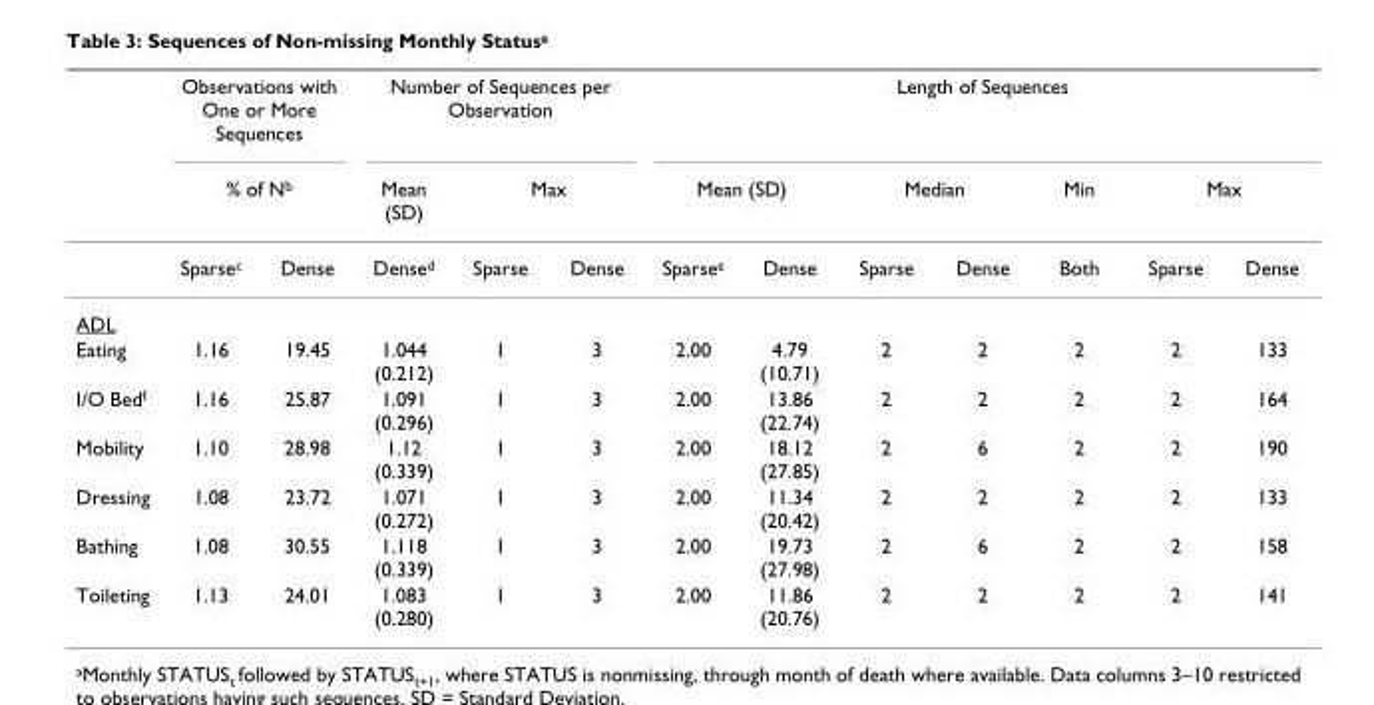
<table><thead><tr><td rowspan="3"></td><td rowspan="2" colspan="2">Observations with One or More Sequences % of Nb</td><td colspan="3">Number of Sequences per Observation</td><td colspan="7">Length of Sequences</td></tr><tr><td rowspan="2">Mean (SD) Densed</td><td colspan="2">Max</td><td colspan="2">Mean (SD)</td><td colspan="2">Median</td><td rowspan="2">Min Both</td><td colspan="2">Max</td></tr><tr><td>Sparsec</td><td>Dense</td><td>Sparse</td><td>Dense</td><td>Sparsee</td><td>Dense</td><td>Sparse</td><td>Dense</td><td>Sparse</td><td>Dense</td></tr></thead><tbody><tr><td colspan="13">ADL</td></tr><tr><td>Eating</td><td>1.16</td><td>19.45</td><td>1.044 (0.212)</td><td>1</td><td>3</td><td>2.00</td><td>4.79 (10.71)</td><td>2</td><td>2</td><td>2</td><td>2</td><td>133</td></tr><tr><td>I/O Bed<sup>f</sup></td><td>1.16</td><td>25.87</td><td>1.091 (0.296)</td><td>1</td><td>3</td><td>2.00</td><td>13.86 (22.74)</td><td>2</td><td>2</td><td>2</td><td>2</td><td>164</td></tr><tr><td>Mobility</td><td>1.10</td><td>28.98</td><td>1.12 (0.339)</td><td>1</td><td>3</td><td>2.00</td><td>18.12 (27.85)</td><td>2</td><td>6</td><td>2</td><td>2</td><td>190</td></tr><tr><td>Dressing</td><td>1.08</td><td>23.72</td><td>1.071 (0.272)</td><td>1</td><td>3</td><td>2.00</td><td>11.34 (20.42)</td><td>2</td><td>2</td><td>2</td><td>2</td><td>133</td></tr><tr><td>Bathing</td><td>1.08</td><td>30.55</td><td>1.118 (0.339)</td><td>1</td><td>3</td><td>2.00</td><td>19.73 (27.98)</td><td>2</td><td>6</td><td>2</td><td>2</td><td>158</td></tr><tr><td>Toileting</td><td>1.13</td><td>24.01</td><td>1.083 (0.280)</td><td>1</td><td>3</td><td>2.00</td><td>11.86 (20.76)</td><td>2</td><td>2</td><td>2</td><td>2</td><td>141</td></tr></tbody></table>